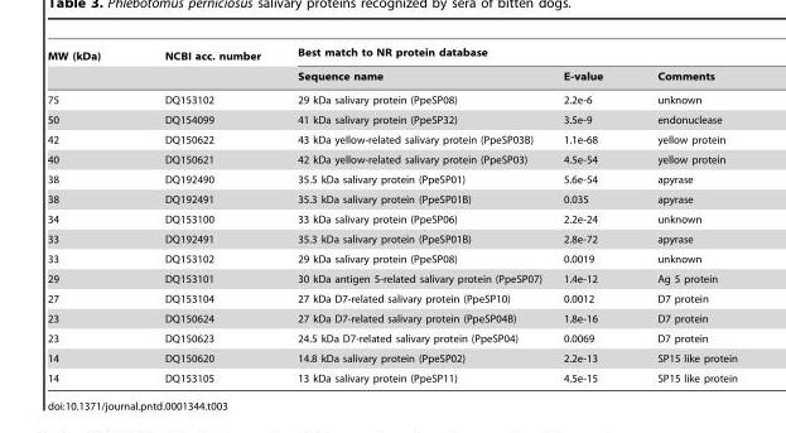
<table><thead><tr><td rowspan="2">MW (kDa)</td><td rowspan="2">NCBI acc. number</td><td colspan="3">Best match to NR protein database</td></tr><tr><td>Sequence name</td><td>E-value</td><td>Comments</td></tr></thead><tbody><tr><td>75</td><td>DQ153102</td><td>29 kDa salivary protein (PpeSP08)</td><td>2.2e-6</td><td>unknown</td></tr><tr><td>50</td><td>DQ154099</td><td>41 kDa salivary protein (PpeSP32)</td><td>3.5e-9</td><td>endonuclease</td></tr><tr><td>42</td><td>DQ150622</td><td>43 kDa yellow-related salivary protein (PpeSP03B)</td><td>1.1e-68</td><td>yellow protein</td></tr><tr><td>40</td><td>DQ150621</td><td>42 kDa yellow-related salivary protein (PpeSP03)</td><td>4.5e-54</td><td>yellow protein</td></tr><tr><td>38</td><td>DQ192490</td><td>35.5 kDa salivary protein (PpeSP01)</td><td>5.6e-54</td><td>apyrase</td></tr><tr><td>38</td><td>DQ192491</td><td>35.3 kDa salivary protein (PpeSP01B)</td><td>0.035</td><td>apyrase</td></tr><tr><td>34</td><td>DQ153100</td><td>33 kDa salivary protein (PpeSP06)</td><td>2.2e-24</td><td>unknown</td></tr><tr><td>33</td><td>DQ192491</td><td>35.3 kDa salivary protein (PpeSP01B)</td><td>2.8e-72</td><td>apyrase</td></tr><tr><td>33</td><td>DQ153102</td><td>29 kDa salivary protein (PpeSP08)</td><td>0.0019</td><td>unknown</td></tr><tr><td>29</td><td>DQ153101</td><td>30 kDa antigen 5-related salivary protein (PpeSP07)</td><td>1.4e-12</td><td>Ag 5 protein</td></tr><tr><td>27</td><td>DQ153104</td><td>27 kDa D7-related salivary protein (PpeSP10)</td><td>0.0012</td><td>D7 protein</td></tr><tr><td>23</td><td>DQ150624</td><td>27 kDa D7-related salivary protein (PpeSP04B)</td><td>1.8e-16</td><td>D7 protein</td></tr><tr><td>23</td><td>DQ150623</td><td>24.5 kDa D7-related salivary protein (PpeSP04)</td><td>0.0069</td><td>D7 protein</td></tr><tr><td>14</td><td>DQ150620</td><td>14.8 kDa salivary protein (PpeSP02)</td><td>2.2e-13</td><td>SP15 like protein</td></tr><tr><td>14</td><td>DQ153105</td><td>13 kDa salivary protein (PpeSP11)</td><td>4.5e-15</td><td>SP15 like protein</td></tr></tbody></table>